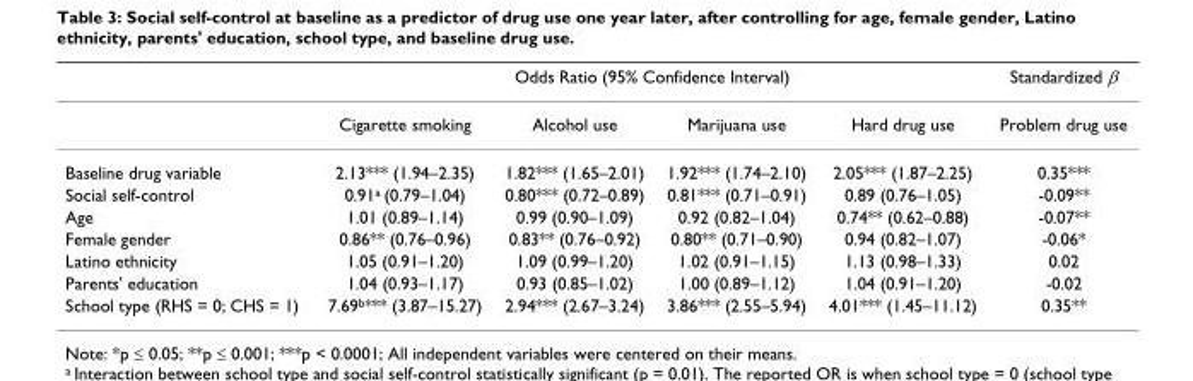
<table><thead><tr><td rowspan="2"></td><td colspan="4">Odds Ratio (95% Confidence Interval)</td><td rowspan="2">Standardized β Problem drug use</td></tr><tr><td>Cigarette smoking</td><td>Alcohol use</td><td>Marijuana use</td><td>Hard drug use</td></tr></thead><tbody><tr><td>Baseline drug variable</td><td>2.13*** (1.94–2.35)</td><td>1.82*** (1.65–2.01)</td><td>1.92*** (1.74–2.10)</td><td>2.05*** (1.87–2.25)</td><td>0.35***</td></tr><tr><td>Social self-control</td><td>0.91<sup>a</sup> (0.79–1.04)</td><td>0.80*** (0.72–0.89)</td><td>0.81*** (0.71–0.91)</td><td>0.89 (0.76–1.05)</td><td>-0.09**</td></tr><tr><td>Age</td><td>1.01 (0.89–1.14)</td><td>0.99 (0.90–1.09)</td><td>0.92 (0.82–1.04)</td><td>0.74** (0.62–0.88)</td><td>-0.07**</td></tr><tr><td>Female gender</td><td>0.86** (0.76–0.96)</td><td>0.83** (0.76–0.92)</td><td>0.80** (0.71–0.90)</td><td>0.94 (0.82–1.07)</td><td>-0.06*</td></tr><tr><td>Latino ethnicity</td><td>1.05 (0.91–1.20)</td><td>1.09 (0.99–1.20)</td><td>1.02 (0.91–1.15)</td><td>1.13 (0.98–1.33)</td><td>0.02</td></tr><tr><td>Parents&#x27; education</td><td>1.04 (0.93–1.17)</td><td>0.93 (0.85–1.02)</td><td>1.00 (0.89–1.12)</td><td>1.04 (0.91–1.20)</td><td>-0.02</td></tr><tr><td>School type (RHS = 0; CHS = 1)</td><td>7.69<sup>b</sup>*** (3.87–15.27)</td><td>2.94*** (2.67–3.24)</td><td>3.86*** (2.55–5.94)</td><td>4.01*** (1.45–11.12)</td><td>0.35**</td></tr></tbody></table>